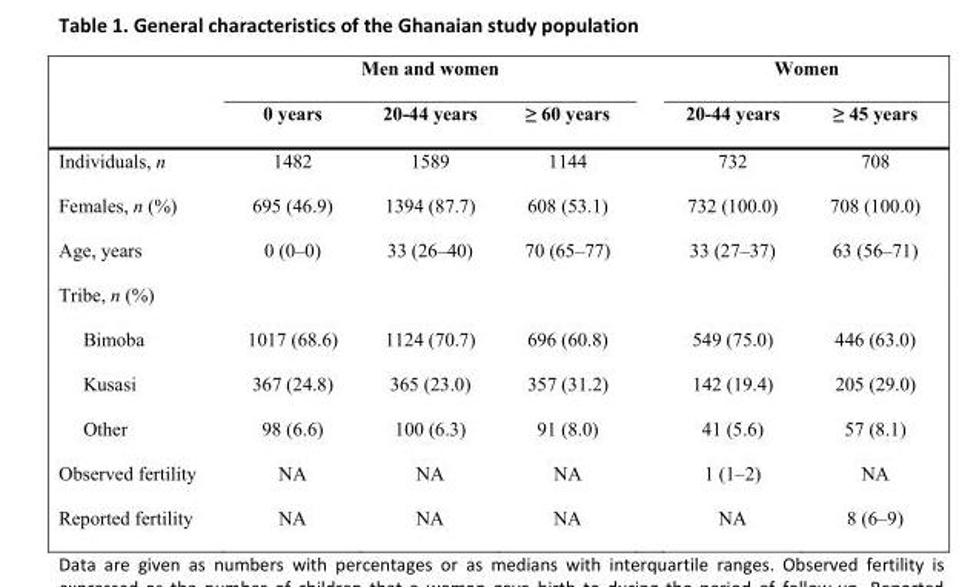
<table><thead><tr><td rowspan="2"></td><td colspan="3">Men and women</td><td colspan="2">Women</td></tr><tr><td>0 years</td><td>20-44 years</td><td>≥ 60 years</td><td>20-44 years</td><td>≥ 45 years</td></tr></thead><tbody><tr><td>Individuals, n</td><td>1482</td><td>1589</td><td>1144</td><td>732</td><td>708</td></tr><tr><td>Females, n (%)</td><td>695 (46.9)</td><td>1394 (87.7)</td><td>608 (53.1)</td><td>732 (100.0)</td><td>708 (100.0)</td></tr><tr><td>Age, years</td><td>0 (0–0)</td><td>33 (26–40)</td><td>70 (65–77)</td><td>33 (27–37)</td><td>63 (56–71)</td></tr><tr><td colspan="6">Tribe, n (%)</td></tr><tr><td>Bimoba</td><td>1017 (68.6)</td><td>1124 (70.7)</td><td>696 (60.8)</td><td>549 (75.0)</td><td>446 (63.0)</td></tr><tr><td>Kusasi</td><td>367 (24.8)</td><td>365 (23.0)</td><td>357 (31.2)</td><td>142 (19.4)</td><td>205 (29.0)</td></tr><tr><td>Other</td><td>98 (6.6)</td><td>100 (6.3)</td><td>91 (8.0)</td><td>41 (5.6)</td><td>57 (8.1)</td></tr><tr><td>Observed fertility</td><td>NA</td><td>NA</td><td>NA</td><td>1 (1–2)</td><td>NA</td></tr><tr><td>Reported fertility</td><td>NA</td><td>NA</td><td>NA</td><td>NA</td><td>8 (6–9)</td></tr></tbody></table>